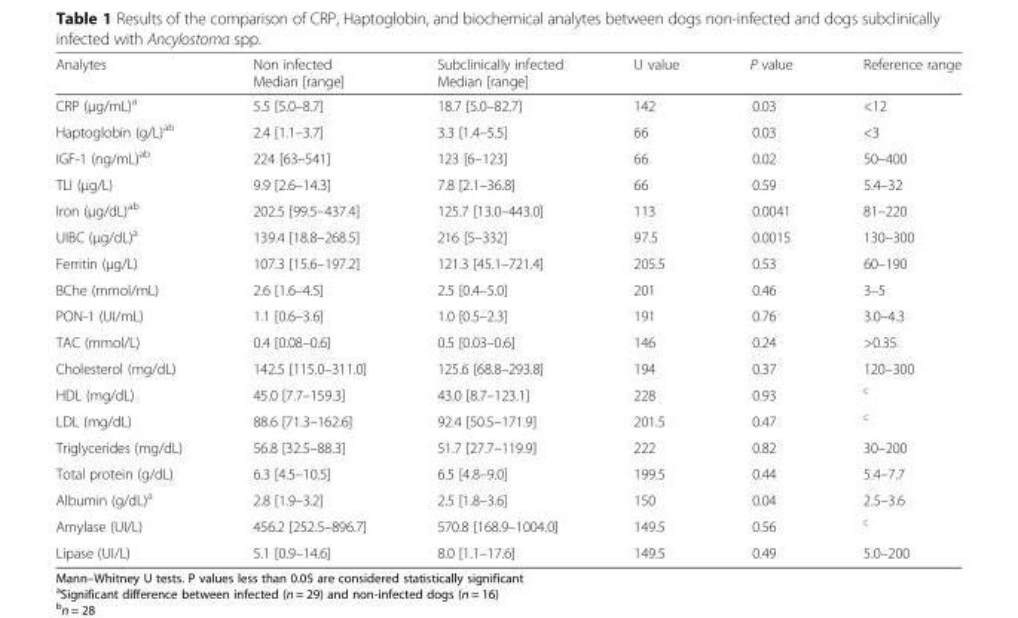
<table><thead><tr><td>Analytes</td><td>Non infected Median [range]</td><td>Subclinically infected Median [range]</td><td>U value</td><td>P value</td><td>Reference range</td></tr></thead><tbody><tr><td>CRP (μg/mL)<sup>a</sup></td><td>5.5 [5.0–8.7]</td><td>18.7 [5.0–82.7]</td><td>142</td><td>0.03</td><td>&lt;12</td></tr><tr><td>Haptoglobin (g/L)<sup>ab</sup></td><td>2.4 [1.1–3.7]</td><td>3.3 [1.4–5.5]</td><td>66</td><td>0.03</td><td>&lt;3</td></tr><tr><td>IGF-1 (ng/mL)<sup>ab</sup></td><td>224 [63–541]</td><td>123 [6–123]</td><td>66</td><td>0.02</td><td>50–400</td></tr><tr><td>TLI (μg/L)</td><td>9.9 [2.6–14.3]</td><td>7.8 [2.1–36.8]</td><td>66</td><td>0.59</td><td>5.4–32</td></tr><tr><td>Iron (μg/dL)<sup>ab</sup></td><td>202.5 [99.5–437.4]</td><td>125.7 [13.0–443.0]</td><td>113</td><td>0.0041</td><td>81–220</td></tr><tr><td>UIBC (μg/dL)<sup>a</sup></td><td>139.4 [18.8–268.5]</td><td>216 [5–332]</td><td>97.5</td><td>0.0015</td><td>130–300</td></tr><tr><td>Ferritin (μg/L)</td><td>107.3 [15.6–197.2]</td><td>121.3 [45.1–721.4]</td><td>205.5</td><td>0.53</td><td>60–190</td></tr><tr><td>BChe (mmol/mL)</td><td>2.6 [1.6–4.5]</td><td>2.5 [0.4–5.0]</td><td>201</td><td>0.46</td><td>3–5</td></tr><tr><td>PON-1 (UI/mL)</td><td>1.1 [0.6–3.6]</td><td>1.0 [0.5–2.3]</td><td>191</td><td>0.76</td><td>3.0–4.3</td></tr><tr><td>TAC (mmol/L)</td><td>0.4 [0.08–0.6]</td><td>0.5 [0.03–0.6]</td><td>146</td><td>0.24</td><td>&gt;0.35</td></tr><tr><td>Cholesterol (mg/dL)</td><td>142.5 [115.0–311.0]</td><td>125.6 [68.8–293.8]</td><td>194</td><td>0.37</td><td>120–300</td></tr><tr><td>HDL (mg/dL)</td><td>45.0 [7.7–159.3]</td><td>43.0 [8.7–123.1]</td><td>228</td><td>0.93</td><td><sup>c</sup></td></tr><tr><td>LDL (mg/dL)</td><td>88.6 [71.3–162.6]</td><td>92.4 [50.5–171.9]</td><td>201.5</td><td>0.47</td><td><sup>c</sup></td></tr><tr><td>Triglycerides (mg/dL)</td><td>56.8 [32.5–88.3]</td><td>51.7 [27.7–119.9]</td><td>222</td><td>0.82</td><td>30–200</td></tr><tr><td>Total protein (g/dL)</td><td>6.3 [4.5–10.5]</td><td>6.5 [4.8–9.0]</td><td>199.5</td><td>0.44</td><td>5.4–7.7</td></tr><tr><td>Albumin (g/dL)<sup>a</sup></td><td>2.8 [1.9–3.2]</td><td>2.5 [1.8–3.6]</td><td>150</td><td>0.04</td><td>2.5–3.6</td></tr><tr><td>Amylase (UI/L)</td><td>456.2 [252.5–896.7]</td><td>570.8 [168.9–1004.0]</td><td>149.5</td><td>0.56</td><td><sup>c</sup></td></tr><tr><td>Lipase (UI/L)</td><td>5.1 [0.9–14.6]</td><td>8.0 [1.1–17.6]</td><td>149.5</td><td>0.49</td><td>5.0–200</td></tr></tbody></table>